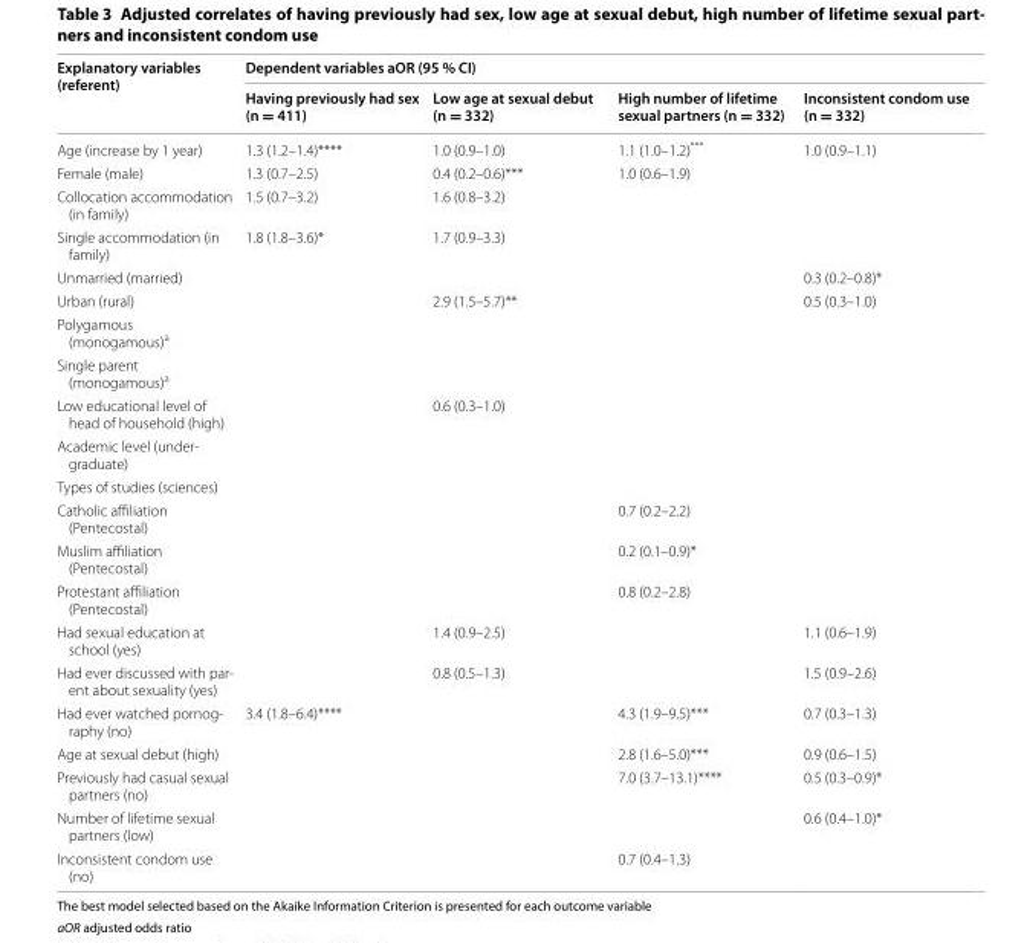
<table><thead><tr><td rowspan="2">Explanatory variables (referent)</td><td colspan="4">Dependent variables aOR (95 % CI)</td></tr><tr><td>Having previously had sex (n = 411)</td><td>Low age at sexual debut (n = 332)</td><td>High number of lifetime sexual partners (n = 332)</td><td>Inconsistent condom use (n = 332)</td></tr></thead><tbody><tr><td>Age (increase by 1 year)</td><td>1.3 (1.2–1.4)****</td><td>1.0 (0.9–1.0)</td><td>1.1 (1.0–1.2)***</td><td>1.0 (0.9–1.1)</td></tr><tr><td>Female (male)</td><td>1.3 (0.7–2.5)</td><td>0.4 (0.2–0.6)***</td><td>1.0 (0.6–1.9)</td><td></td></tr><tr><td>Collocation accommodation (in family)</td><td>1.5 (0.7–3.2)</td><td>1.6 (0.8–3.2)</td><td></td><td></td></tr><tr><td>Single accommodation (in family)</td><td>1.8 (1.8–3.6)*</td><td>1.7 (0.9–3.3)</td><td></td><td></td></tr><tr><td>Unmarried (married)</td><td></td><td></td><td></td><td>0.3 (0.2–0.8)*</td></tr><tr><td>Urban (rural)</td><td></td><td>2.9 (1.5–5.7)**</td><td></td><td>0.5 (0.3–1.0)</td></tr><tr><td colspan="5">Polygamous (monogamous)<sup>a</sup></td></tr><tr><td colspan="5">Single parent (monogamous)<sup>a</sup></td></tr><tr><td>Low educational level of head of household (high)</td><td></td><td>0.6 (0.3–1.0)</td><td></td><td></td></tr><tr><td colspan="5">Academic level (under‑ graduate)</td></tr><tr><td colspan="5">Types of studies (sciences)</td></tr><tr><td>Catholic affiliation (Pentecostal)</td><td></td><td></td><td>0.7 (0.2–2.2)</td><td></td></tr><tr><td>Muslim affiliation (Pentecostal)</td><td></td><td></td><td>0.2 (0.1–0.9)*</td><td></td></tr><tr><td>Protestant affiliation (Pentecostal)</td><td></td><td></td><td>0.8 (0.2–2.8)</td><td></td></tr><tr><td>Had sexual education at school (yes)</td><td></td><td>1.4 (0.9–2.5)</td><td></td><td>1.1 (0.6–1.9)</td></tr><tr><td>Had ever discussed with par‑ ent about sexuality (yes)</td><td></td><td>0.8 (0.5–1.3)</td><td></td><td>1.5 (0.9–2.6)</td></tr><tr><td>Had ever watched pornog‑ raphy (no)</td><td>3.4 (1.8–6.4)****</td><td></td><td>4.3 (1.9–9.5)***</td><td>0.7 (0.3–1.3)</td></tr><tr><td>Age at sexual debut (high)</td><td></td><td></td><td>2.8 (1.6–5.0)***</td><td>0.9 (0.6–1.5)</td></tr><tr><td>Previously had casual sexual partners (no)</td><td></td><td></td><td>7.0 (3.7–13.1)****</td><td>0.5 (0.3–0.9)*</td></tr><tr><td>Number of lifetime sexual partners (low)</td><td></td><td></td><td></td><td>0.6 (0.4–1.0)*</td></tr><tr><td>Inconsistent condom use (no)</td><td></td><td></td><td>0.7 (0.4–1.3)</td><td></td></tr></tbody></table>